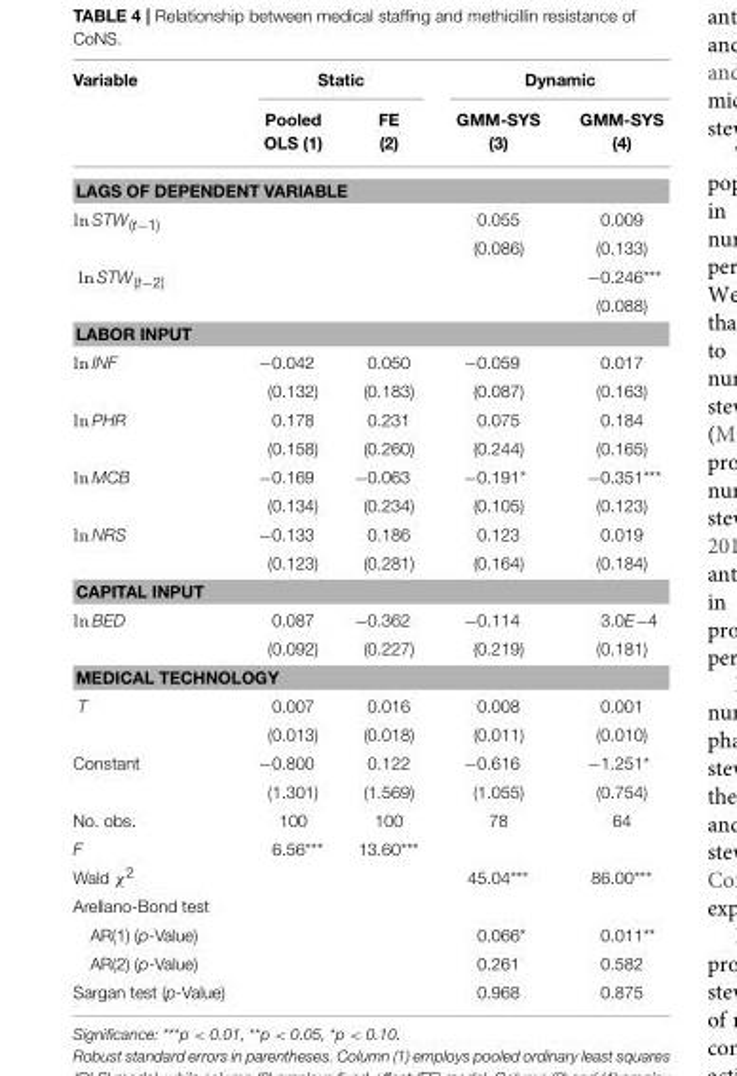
<table><thead><tr><td rowspan="2">Variable</td><td colspan="2">Static</td><td colspan="2">Dynamic</td></tr><tr><td>Pooled OLS (1)</td><td>FE (2)</td><td>GMM-SYS (3)</td><td>GMM-SYS (4)</td></tr></thead><tbody><tr><td colspan="5">LAGS OF DEPENDENT VARIABLE</td></tr><tr><td rowspan="2">ln STW<sub>(t−1)</sub></td><td></td><td></td><td>0.055</td><td>0.009</td></tr><tr><td></td><td></td><td>(0.086)</td><td>(0.133)</td></tr><tr><td rowspan="2">ln STW<sub>(t−2)</sub></td><td></td><td></td><td></td><td>−0.246***</td></tr><tr><td></td><td></td><td></td><td>(0.088)</td></tr><tr><td colspan="5">LABOR INPUT</td></tr><tr><td rowspan="2">ln INF</td><td>−0.042</td><td>0.050</td><td>−0.059</td><td>0.017</td></tr><tr><td>(0.132)</td><td>(0.183)</td><td>(0.087)</td><td>(0.163)</td></tr><tr><td rowspan="2">ln PHR</td><td>0.178</td><td>0.231</td><td>0.075</td><td>0.184</td></tr><tr><td>(0.158)</td><td>(0.260)</td><td>(0.244)</td><td>(0.165)</td></tr><tr><td rowspan="2">ln MCB</td><td>−0.169</td><td>−0.063</td><td>−0.191*</td><td>−0.351***</td></tr><tr><td>(0.134)</td><td>(0.234)</td><td>(0.105)</td><td>(0.123)</td></tr><tr><td rowspan="2">ln NRS</td><td>−0.133</td><td>0.186</td><td>0.123</td><td>0.019</td></tr><tr><td>(0.123)</td><td>(0.281)</td><td>(0.164)</td><td>(0.184)</td></tr><tr><td colspan="5">CAPITAL INPUT</td></tr><tr><td rowspan="2">ln BED</td><td>0.087</td><td>−0.362</td><td>−0.114</td><td>3.0E−4</td></tr><tr><td>(0.092)</td><td>(0.227)</td><td>(0.219)</td><td>(0.181)</td></tr><tr><td colspan="5">MEDICAL TECHNOLOGY</td></tr><tr><td rowspan="2">T</td><td>0.007</td><td>0.016</td><td>0.008</td><td>0.001</td></tr><tr><td>(0.013)</td><td>(0.018)</td><td>(0.011)</td><td>(0.010)</td></tr><tr><td rowspan="2">Constant</td><td>−0.800</td><td>0.122</td><td>−0.616</td><td>−1.251*</td></tr><tr><td>(1.301)</td><td>(1.569)</td><td>(1.055)</td><td>(0.754)</td></tr><tr><td>No. obs.</td><td>100</td><td>100</td><td>78</td><td>64</td></tr><tr><td>F</td><td>6.56***</td><td>13.60***</td><td></td><td></td></tr><tr><td>Wald χ<sup>2</sup></td><td></td><td></td><td>45.04***</td><td>86.00***</td></tr><tr><td colspan="5">Arellano-Bond test</td></tr><tr><td>AR(1) (p-Value)</td><td></td><td></td><td>0.066*</td><td>0.011**</td></tr><tr><td>AR(2) (p-Value)</td><td></td><td></td><td>0.261</td><td>0.582</td></tr><tr><td>Sargan test (p-Value)</td><td></td><td></td><td>0.968</td><td>0.875</td></tr></tbody></table>